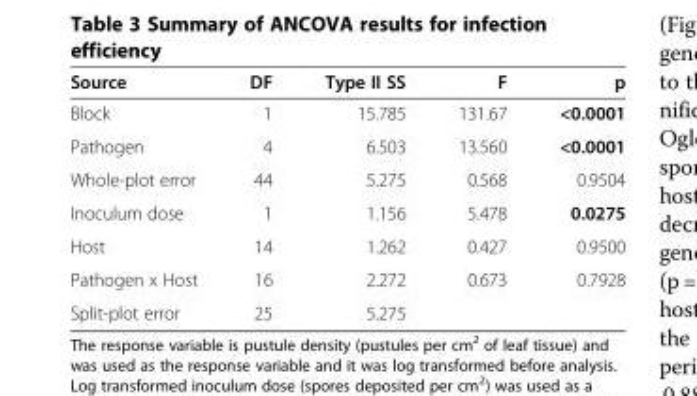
<table><thead><tr><td>Source</td><td>DF</td><td>Type II SS</td><td>F</td><td>p</td></tr></thead><tbody><tr><td>Block</td><td>1</td><td>15.785</td><td>131.67</td><td>&lt;0.0001</td></tr><tr><td>Pathogen</td><td>4</td><td>6.503</td><td>13.560</td><td>&lt;0.0001</td></tr><tr><td>Whole-plot error</td><td>44</td><td>5.275</td><td>0.568</td><td>0.9504</td></tr><tr><td>Inoculum dose</td><td>1</td><td>1.156</td><td>5.478</td><td>0.0275</td></tr><tr><td>Host</td><td>14</td><td>1.262</td><td>0.427</td><td>0.9500</td></tr><tr><td>Pathogen x Host</td><td>16</td><td>2.272</td><td>0.673</td><td>0.7928</td></tr><tr><td>Split-plot error</td><td>25</td><td>5.275</td><td></td><td></td></tr></tbody></table>